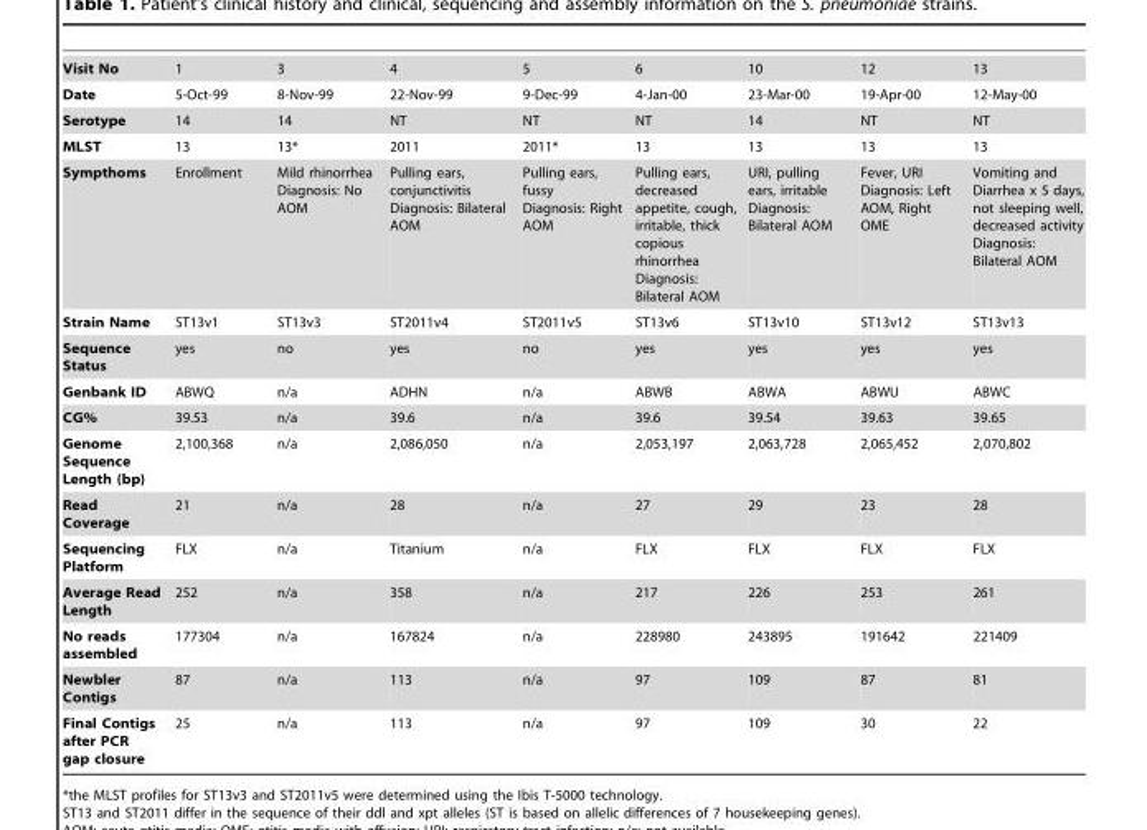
<table><tbody><tr><td>Visit No</td><td>1</td><td>3</td><td>4</td><td>5</td><td>6</td><td>10</td><td>12</td><td>13</td></tr><tr><td>Date</td><td>5-Oct-99</td><td>8-Nov-99</td><td>22-Nov-99</td><td>9-Dec-99</td><td>4-Jan-00</td><td>23-Mar-00</td><td>19-Apr-00</td><td>12-May-00</td></tr><tr><td>Serotype</td><td>14</td><td>14</td><td>NT</td><td>NT</td><td>NT</td><td>14</td><td>NT</td><td>NT</td></tr><tr><td>MLST</td><td>13</td><td>13*</td><td>2011</td><td>2011*</td><td>13</td><td>13</td><td>13</td><td>13</td></tr><tr><td>Sympthoms</td><td>Enrollment</td><td>Mild rhinorrhea Diagnosis: No AOM</td><td>Pulling ears, conjunctivitis Diagnosis: Bilateral AOM</td><td>Pulling ears, fussy Diagnosis: Right AOM</td><td>Pulling ears, decreased appetite, cough, irritable, thick copious rhinorrhea Diagnosis: Bilateral AOM</td><td>URI, pulling ears, irritable Diagnosis: Bilateral AOM</td><td>Fever, URI Diagnosis: Left AOM, Right OME</td><td>Vomiting and Diarrhea x 5 days, not sleeping well, decreased activity Diagnosis: Bilateral AOM</td></tr><tr><td>Strain Name</td><td>ST13v1</td><td>ST13v3</td><td>ST2011v4</td><td>ST2011v5</td><td>ST13v6</td><td>ST13v10</td><td>ST13v12</td><td>ST13v13</td></tr><tr><td>Sequence Status</td><td>yes</td><td>no</td><td>yes</td><td>no</td><td>yes</td><td>yes</td><td>yes</td><td>yes</td></tr><tr><td>Genbank ID</td><td>ABWQ</td><td>n/a</td><td>ADHN</td><td>n/a</td><td>ABWB</td><td>ABWA</td><td>ABWU</td><td>ABWC</td></tr><tr><td>CG%</td><td>39.53</td><td>n/a</td><td>39.6</td><td>n/a</td><td>39.6</td><td>39.54</td><td>39.63</td><td>39.65</td></tr><tr><td>Genome Sequence Length (bp)</td><td>2,100,368</td><td>n/a</td><td>2,086,050</td><td>n/a</td><td>2,053,197</td><td>2,063,728</td><td>2,065,452</td><td>2,070,802</td></tr><tr><td>Read Coverage</td><td>21</td><td>n/a</td><td>28</td><td>n/a</td><td>27</td><td>29</td><td>23</td><td>28</td></tr><tr><td>Sequencing Platform</td><td>FLX</td><td>n/a</td><td>Titanium</td><td>n/a</td><td>FLX</td><td>FLX</td><td>FLX</td><td>FLX</td></tr><tr><td>Average Read Length</td><td>252</td><td>n/a</td><td>358</td><td>n/a</td><td>217</td><td>226</td><td>253</td><td>261</td></tr><tr><td>No reads assembled</td><td>177304</td><td>n/a</td><td>167824</td><td>n/a</td><td>228980</td><td>243895</td><td>191642</td><td>221409</td></tr><tr><td>Newbler Contigs</td><td>87</td><td>n/a</td><td>113</td><td>n/a</td><td>97</td><td>109</td><td>87</td><td>81</td></tr><tr><td>Final Contigs after PCR gap closure</td><td>25</td><td>n/a</td><td>113</td><td>n/a</td><td>97</td><td>109</td><td>30</td><td>22</td></tr></tbody></table>